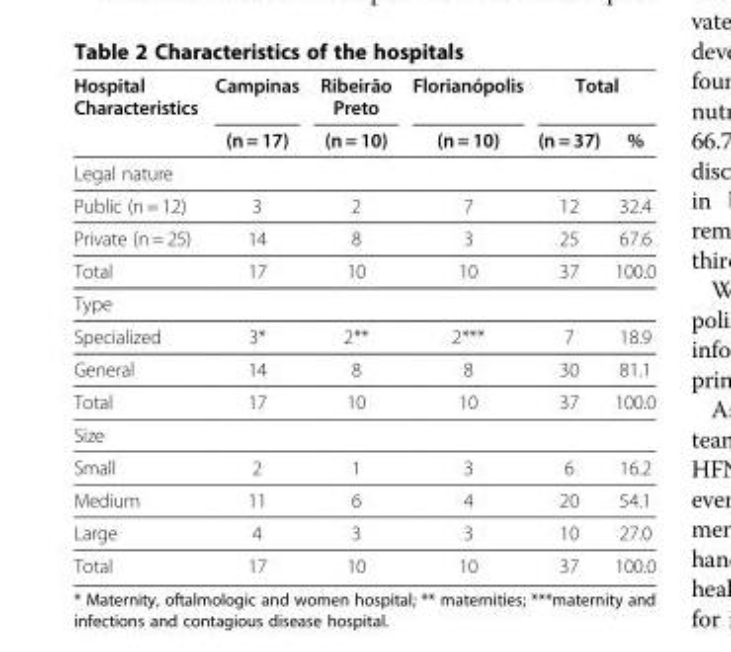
<table><thead><tr><td rowspan="2">Hospital Characteristics</td><td rowspan="2">Campinas (n = 17)</td><td rowspan="2">Ribeirão Preto (n = 10)</td><td rowspan="2">Florianópolis (n = 10)</td><td colspan="2">Total</td></tr><tr><td>(n = 37)</td><td>%</td></tr></thead><tbody><tr><td colspan="6">Legal nature</td></tr><tr><td>Public (n = 12)</td><td>3</td><td>2</td><td>7</td><td>12</td><td>32.4</td></tr><tr><td>Private (n = 25)</td><td>14</td><td>8</td><td>3</td><td>25</td><td>67.6</td></tr><tr><td>Total</td><td>17</td><td>10</td><td>10</td><td>37</td><td>100.0</td></tr><tr><td colspan="6">Type</td></tr><tr><td>Specialized</td><td>3*</td><td>2**</td><td>2***</td><td>7</td><td>18.9</td></tr><tr><td>General</td><td>14</td><td>8</td><td>8</td><td>30</td><td>81.1</td></tr><tr><td>Total</td><td>17</td><td>10</td><td>10</td><td>37</td><td>100.0</td></tr><tr><td colspan="6">Size</td></tr><tr><td>Small</td><td>2</td><td>1</td><td>3</td><td>6</td><td>16.2</td></tr><tr><td>Medium</td><td>11</td><td>6</td><td>4</td><td>20</td><td>54.1</td></tr><tr><td>Large</td><td>4</td><td>3</td><td>3</td><td>10</td><td>27.0</td></tr><tr><td>Total</td><td>17</td><td>10</td><td>10</td><td>37</td><td>100.0</td></tr></tbody></table>